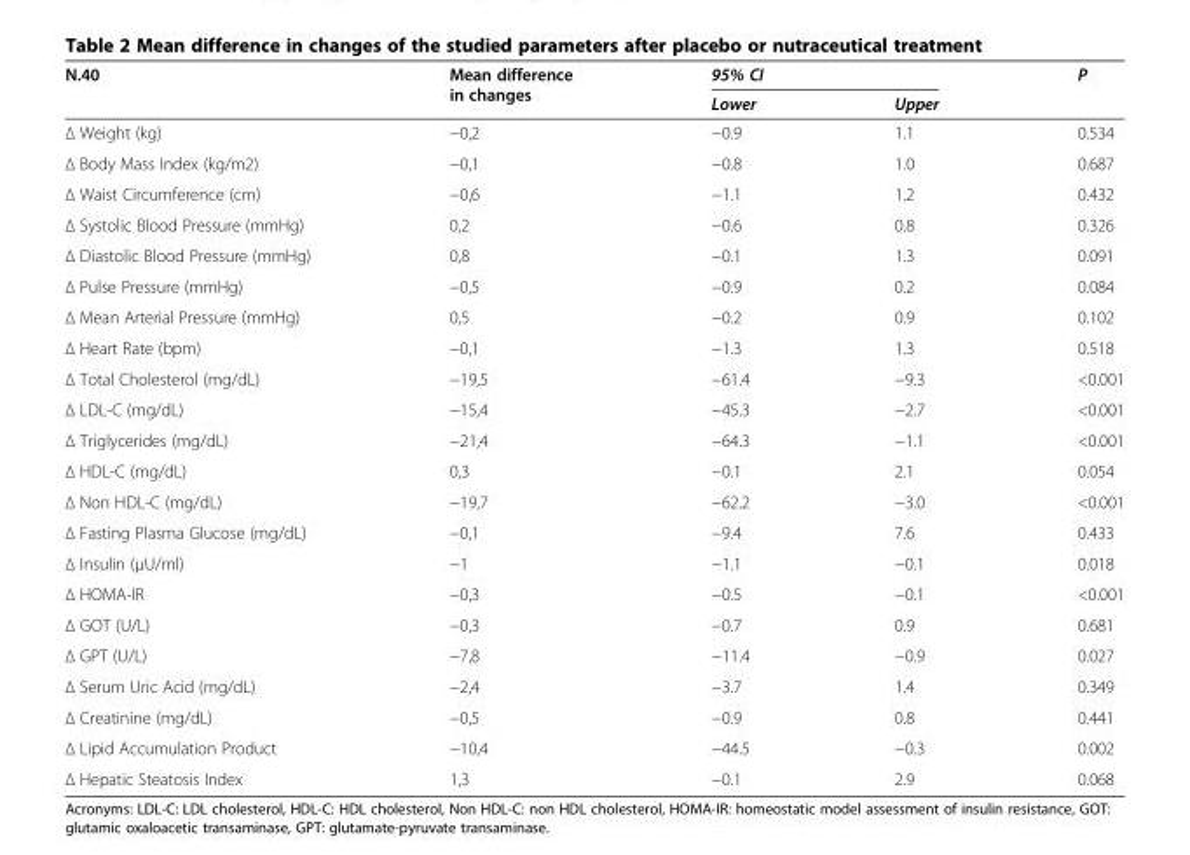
<table><thead><tr><td rowspan="2">N.40</td><td rowspan="2">Mean difference in changes</td><td colspan="2">95% CI</td><td rowspan="2">P</td></tr><tr><td>Lower</td><td>Upper</td></tr></thead><tbody><tr><td>Δ Weight (kg)</td><td>−0,2</td><td>−0.9</td><td>1.1</td><td>0.534</td></tr><tr><td>Δ Body Mass Index (kg/m2)</td><td>−0,1</td><td>−0.8</td><td>1.0</td><td>0.687</td></tr><tr><td>Δ Waist Circumference (cm)</td><td>−0,6</td><td>−1.1</td><td>1.2</td><td>0.432</td></tr><tr><td>Δ Systolic Blood Pressure (mmHg)</td><td>0,2</td><td>−0.6</td><td>0.8</td><td>0.326</td></tr><tr><td>Δ Diastolic Blood Pressure (mmHg)</td><td>0,8</td><td>−0.1</td><td>1.3</td><td>0.091</td></tr><tr><td>Δ Pulse Pressure (mmHg)</td><td>−0,5</td><td>−0.9</td><td>0.2</td><td>0.084</td></tr><tr><td>Δ Mean Arterial Pressure (mmHg)</td><td>0,5</td><td>−0.2</td><td>0.9</td><td>0.102</td></tr><tr><td>Δ Heart Rate (bpm)</td><td>−0,1</td><td>−1.3</td><td>1.3</td><td>0.518</td></tr><tr><td>Δ Total Cholesterol (mg/dL)</td><td>−19,5</td><td>−61.4</td><td>−9.3</td><td>&lt;0.001</td></tr><tr><td>Δ LDL-C (mg/dL)</td><td>−15,4</td><td>−45.3</td><td>−2.7</td><td>&lt;0.001</td></tr><tr><td>Δ Triglycerides (mg/dL)</td><td>−21,4</td><td>−64.3</td><td>−1.1</td><td>&lt;0.001</td></tr><tr><td>Δ HDL-C (mg/dL)</td><td>0,3</td><td>−0.1</td><td>2.1</td><td>0.054</td></tr><tr><td>Δ Non HDL-C (mg/dL)</td><td>−19,7</td><td>−62.2</td><td>−3.0</td><td>&lt;0.001</td></tr><tr><td>Δ Fasting Plasma Glucose (mg/dL)</td><td>−0,1</td><td>−9.4</td><td>7.6</td><td>0.433</td></tr><tr><td>Δ Insulin (μU/ml)</td><td>−1</td><td>−1.1</td><td>−0.1</td><td>0.018</td></tr><tr><td>Δ HOMA-IR</td><td>−0,3</td><td>−0.5</td><td>−0.1</td><td>&lt;0.001</td></tr><tr><td>Δ GOT (U/L)</td><td>−0,3</td><td>−0.7</td><td>0.9</td><td>0.681</td></tr><tr><td>Δ GPT (U/L)</td><td>−7,8</td><td>−11.4</td><td>−0.9</td><td>0.027</td></tr><tr><td>Δ Serum Uric Acid (mg/dL)</td><td>−2,4</td><td>−3.7</td><td>1.4</td><td>0.349</td></tr><tr><td>Δ Creatinine (mg/dL)</td><td>−0,5</td><td>−0.9</td><td>0.8</td><td>0.441</td></tr><tr><td>Δ Lipid Accumulation Product</td><td>−10,4</td><td>−44.5</td><td>−0.3</td><td>0.002</td></tr><tr><td>Δ Hepatic Steatosis Index</td><td>1,3</td><td>−0.1</td><td>2.9</td><td>0.068</td></tr></tbody></table>